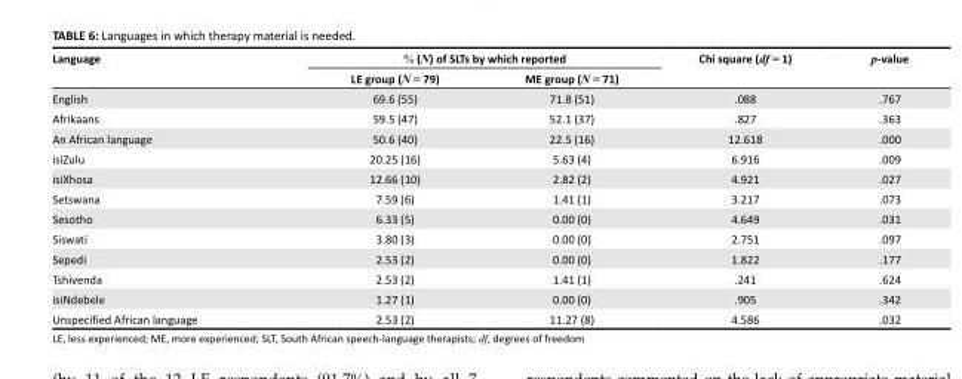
<table><thead><tr><td rowspan="2">Language</td><td colspan="2">% (N) of SLTs by which reported</td><td rowspan="2">Chi square (df = 1)</td><td rowspan="2">p-value</td></tr><tr><td>LE group (N = 79)</td><td>ME group (N = 71)</td></tr></thead><tbody><tr><td>English</td><td>69.6 (55)</td><td>71.8 (51)</td><td>.088</td><td>.767</td></tr><tr><td>Afrikaans</td><td>59.5 (47)</td><td>52.1 (37)</td><td>.827</td><td>.363</td></tr><tr><td>An African language</td><td>50.6 (40)</td><td>22.5 (16)</td><td>12.618</td><td>.000</td></tr><tr><td>isiZulu</td><td>20.25 (16)</td><td>5.63 (4)</td><td>6.916</td><td>.009</td></tr><tr><td>isiXhosa</td><td>12.66 (10)</td><td>2.82 (2)</td><td>4.921</td><td>.027</td></tr><tr><td>Setswana</td><td>7.59 (6)</td><td>1.41 (1)</td><td>3.217</td><td>.073</td></tr><tr><td>Sesotho</td><td>6.33 (5)</td><td>0.00 (0)</td><td>4.649</td><td>.031</td></tr><tr><td>Siswati</td><td>3.80 (3)</td><td>0.00 (0)</td><td>2.751</td><td>.097</td></tr><tr><td>Sepedi</td><td>2.53 (2)</td><td>0.00 (0)</td><td>1.822</td><td>.177</td></tr><tr><td>Tshivenda</td><td>2.53 (2)</td><td>1.41 (1)</td><td>.241</td><td>.624</td></tr><tr><td>isiNdebele</td><td>1.27 (1)</td><td>0.00 (0)</td><td>.905</td><td>.342</td></tr><tr><td>Unspecified African language</td><td>2.53 (2)</td><td>11.27 (8)</td><td>4.586</td><td>.032</td></tr></tbody></table>